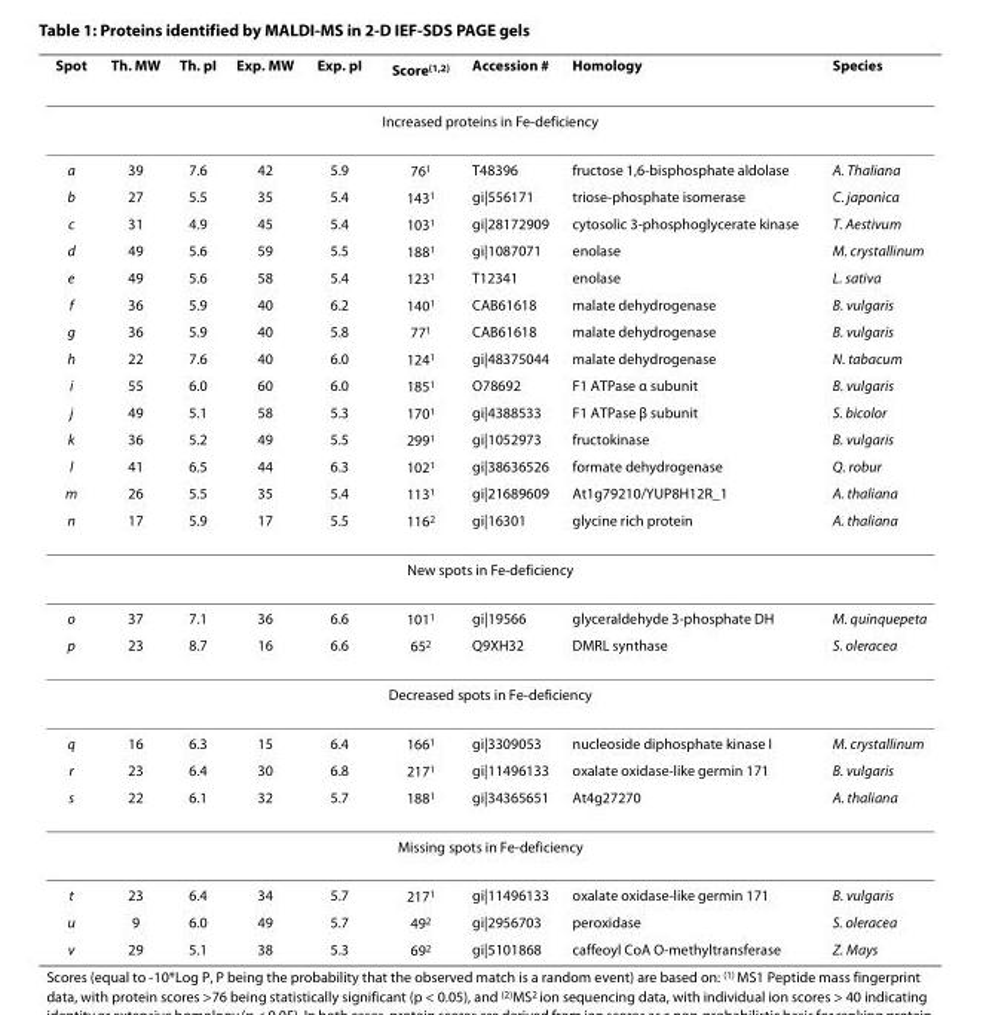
<table><thead><tr><td>Spot</td><td>Th. MW</td><td>Th. pI</td><td>Exp. MW</td><td>Exp. pI</td><td>Score<sup>(1,2)</sup></td><td>Accession #</td><td>Homology</td><td>Species</td></tr></thead><tbody><tr><td colspan="9">Increased proteins in Fe-deficiency</td></tr><tr><td>a</td><td>39</td><td>7.6</td><td>42</td><td>5.9</td><td>76<sup>1</sup></td><td>T48396</td><td>fructose 1,6-bisphosphate aldolase</td><td>A. Thaliana</td></tr><tr><td>b</td><td>27</td><td>5.5</td><td>35</td><td>5.4</td><td>143<sup>1</sup></td><td>gi|556171</td><td>triose-phosphate isomerase</td><td>C. japonica</td></tr><tr><td>c</td><td>31</td><td>4.9</td><td>45</td><td>5.4</td><td>103<sup>1</sup></td><td>gi|28172909</td><td>cytosolic 3-phosphoglycerate kinase</td><td>T. Aestivum</td></tr><tr><td>d</td><td>49</td><td>5.6</td><td>59</td><td>5.5</td><td>188<sup>1</sup></td><td>gi|1087071</td><td>enolase</td><td>M. crystallinum</td></tr><tr><td>e</td><td>49</td><td>5.6</td><td>58</td><td>5.4</td><td>123<sup>1</sup></td><td>T12341</td><td>enolase</td><td>L. sativa</td></tr><tr><td>f</td><td>36</td><td>5.9</td><td>40</td><td>6.2</td><td>140<sup>1</sup></td><td>CAB61618</td><td>malate dehydrogenase</td><td>B. vulgaris</td></tr><tr><td>g</td><td>36</td><td>5.9</td><td>40</td><td>5.8</td><td>77<sup>1</sup></td><td>CAB61618</td><td>malate dehydrogenase</td><td>B. vulgaris</td></tr><tr><td>h</td><td>22</td><td>7.6</td><td>40</td><td>6.0</td><td>124<sup>1</sup></td><td>gi|48375044</td><td>malate dehydrogenase</td><td>N. tabacum</td></tr><tr><td>i</td><td>55</td><td>6.0</td><td>60</td><td>6.0</td><td>185<sup>1</sup></td><td>O78692</td><td>F1 ATPase α subunit</td><td>B. vulgaris</td></tr><tr><td>j</td><td>49</td><td>5.1</td><td>58</td><td>5.3</td><td>170<sup>1</sup></td><td>gi|4388533</td><td>F1 ATPase β subunit</td><td>S. bicolor</td></tr><tr><td>k</td><td>36</td><td>5.2</td><td>49</td><td>5.5</td><td>299<sup>1</sup></td><td>gi|1052973</td><td>fructokinase</td><td>B. vulgaris</td></tr><tr><td>l</td><td>41</td><td>6.5</td><td>44</td><td>6.3</td><td>102<sup>1</sup></td><td>gi|38636526</td><td>formate dehydrogenase</td><td>Q. robur</td></tr><tr><td>m</td><td>26</td><td>5.5</td><td>35</td><td>5.4</td><td>113<sup>1</sup></td><td>gi|21689609</td><td>At1g79210/YUP8H12R_1</td><td>A. thaliana</td></tr><tr><td>n</td><td>17</td><td>5.9</td><td>17</td><td>5.5</td><td>116<sup>2</sup></td><td>gi|16301</td><td>glycine rich protein</td><td>A. thaliana</td></tr><tr><td colspan="9">New spots in Fe-deficiency</td></tr><tr><td>o</td><td>37</td><td>7.1</td><td>36</td><td>6.6</td><td>101<sup>1</sup></td><td>gi|19566</td><td>glyceraldehyde 3-phosphate DH</td><td>M. quinquepeta</td></tr><tr><td>p</td><td>23</td><td>8.7</td><td>16</td><td>6.6</td><td>65<sup>2</sup></td><td>Q9XH32</td><td>DMRL synthase</td><td>S. oleracea</td></tr><tr><td colspan="9">Decreased spots in Fe-deficiency</td></tr><tr><td>q</td><td>16</td><td>6.3</td><td>15</td><td>6.4</td><td>166<sup>1</sup></td><td>gi|3309053</td><td>nucleoside diphosphate kinase I</td><td>M. crystallinum</td></tr><tr><td>r</td><td>23</td><td>6.4</td><td>30</td><td>6.8</td><td>217<sup>1</sup></td><td>gi|11496133</td><td>oxalate oxidase-like germin 171</td><td>B. vulgaris</td></tr><tr><td>s</td><td>22</td><td>6.1</td><td>32</td><td>5.7</td><td>188<sup>1</sup></td><td>gi|34365651</td><td>At4g27270</td><td>A. thaliana</td></tr><tr><td colspan="9">Missing spots in Fe-deficiency</td></tr><tr><td>t</td><td>23</td><td>6.4</td><td>34</td><td>5.7</td><td>217<sup>1</sup></td><td>gi|11496133</td><td>oxalate oxidase-like germin 171</td><td>B. vulgaris</td></tr><tr><td>u</td><td>9</td><td>6.0</td><td>49</td><td>5.7</td><td>49<sup>2</sup></td><td>gi|2956703</td><td>peroxidase</td><td>S. oleracea</td></tr><tr><td>v</td><td>29</td><td>5.1</td><td>38</td><td>5.3</td><td>69<sup>2</sup></td><td>gi|5101868</td><td>caffeoyl CoA O-methyltransferase</td><td>Z. Mays</td></tr></tbody></table>